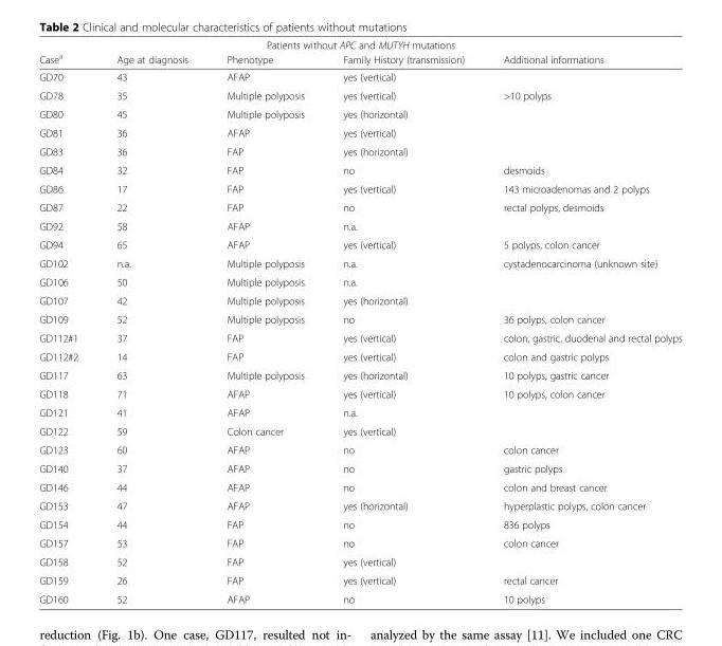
<table><thead><tr><td colspan="5">Patients without APC and MUTYH mutations</td></tr><tr><td>Case<sup>a</sup></td><td>Age at diagnosis</td><td>Phenotype</td><td>Family History (transmission)</td><td>Additional informations</td></tr></thead><tbody><tr><td>GD70</td><td>43</td><td>AFAP</td><td>yes (vertical)</td><td></td></tr><tr><td>GD78</td><td>35</td><td>Multiple polyposis</td><td>yes (vertical)</td><td>&gt;10 polyps</td></tr><tr><td>GD80</td><td>45</td><td>Multiple polyposis</td><td>yes (horizontal)</td><td></td></tr><tr><td>GD81</td><td>36</td><td>AFAP</td><td>yes (vertical)</td><td></td></tr><tr><td>GD83</td><td>36</td><td>FAP</td><td>yes (horizontal)</td><td></td></tr><tr><td>GD84</td><td>32</td><td>FAP</td><td>no</td><td>desmoids</td></tr><tr><td>GD86</td><td>17</td><td>FAP</td><td>yes (vertical)</td><td>143 microadenomas and 2 polyps</td></tr><tr><td>GD87</td><td>22</td><td>FAP</td><td>no</td><td>rectal polyps, desmoids</td></tr><tr><td>GD92</td><td>58</td><td>AFAP</td><td>n.a.</td><td></td></tr><tr><td>GD94</td><td>65</td><td>AFAP</td><td>yes (vertical)</td><td>5 polyps, colon cancer</td></tr><tr><td>GD102</td><td>n.a.</td><td>Multiple polyposis</td><td>n.a.</td><td>cystadenocarcinoma (unknown site)</td></tr><tr><td>GD106</td><td>50</td><td>Multiple polyposis</td><td>n.a.</td><td></td></tr><tr><td>GD107</td><td>42</td><td>Multiple polyposis</td><td>yes (horizontal)</td><td></td></tr><tr><td>GD109</td><td>52</td><td>Multiple polyposis</td><td>no</td><td>36 polyps, colon cancer</td></tr><tr><td>GD112#1</td><td>37</td><td>FAP</td><td>yes (vertical)</td><td>colon, gastric, duodenal and rectal polyps</td></tr><tr><td>GD112#2</td><td>14</td><td>FAP</td><td>yes (vertical)</td><td>colon and gastric polyps</td></tr><tr><td>GD117</td><td>63</td><td>Multiple polyposis</td><td>yes (horizontal)</td><td>10 polyps, gastric cancer</td></tr><tr><td>GD118</td><td>71</td><td>AFAP</td><td>yes (vertical)</td><td>10 polyps, colon cancer</td></tr><tr><td>GD121</td><td>41</td><td>AFAP</td><td>n.a.</td><td></td></tr><tr><td>GD122</td><td>59</td><td>Colon cancer</td><td>yes (vertical)</td><td></td></tr><tr><td>GD123</td><td>60</td><td>AFAP</td><td>no</td><td>colon cancer</td></tr><tr><td>GD140</td><td>37</td><td>AFAP</td><td>no</td><td>gastric polyps</td></tr><tr><td>GD146</td><td>44</td><td>AFAP</td><td>no</td><td>colon and breast cancer</td></tr><tr><td>GD153</td><td>47</td><td>AFAP</td><td>yes (horizontal)</td><td>hyperplastic polyps, colon cancer</td></tr><tr><td>GD154</td><td>44</td><td>FAP</td><td>no</td><td>836 polyps</td></tr><tr><td>GD157</td><td>53</td><td>FAP</td><td>no</td><td>colon cancer</td></tr><tr><td>GD158</td><td>52</td><td>FAP</td><td>yes (vertical)</td><td></td></tr><tr><td>GD159</td><td>26</td><td>FAP</td><td>yes (vertical)</td><td>rectal cancer</td></tr><tr><td>GD160</td><td>52</td><td>AFAP</td><td>no</td><td>10 polyps</td></tr></tbody></table>